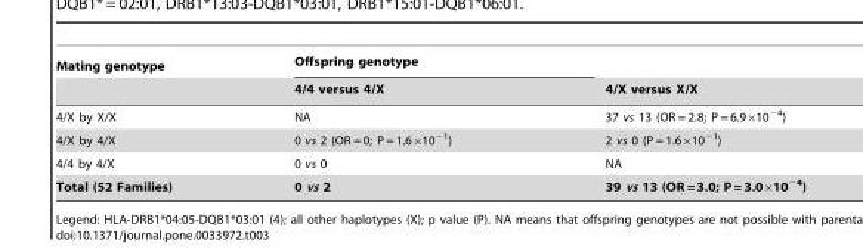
<table><thead><tr><td rowspan="2">Mating genotype</td><td rowspan="2">Offspring genotype 4/4 versus 4/X</td><td rowspan="2">4/X versus X/X</td></tr><tr></tr></thead><tbody><tr><td>4/X by X/X</td><td>NA</td><td>37 vs 13 (OR = 2.8; P = 6.9×10<sup>−4</sup>)</td></tr><tr><td>4/X by 4/X</td><td>0 vs 2 (OR = 0; P = 1.6×10<sup>−1</sup>)</td><td>2 vs 0 (P = 1.6×10<sup>−1</sup>)</td></tr><tr><td>4/4 by 4/X</td><td>0 vs 0</td><td>NA</td></tr><tr><td>Total (52 Families)</td><td>0 vs 2</td><td>39 vs 13 (OR = 3.0; P = 3.0×10<sup>−4</sup>)</td></tr></tbody></table>